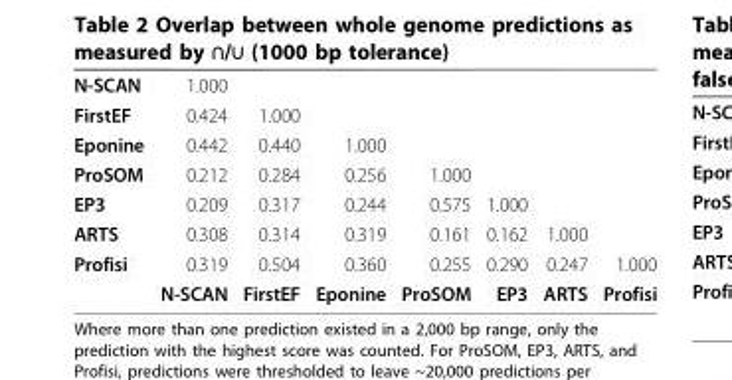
<table><tbody><tr><td>N-SCAN</td><td>1.000</td><td></td><td></td><td></td><td></td><td></td><td></td></tr><tr><td>FirstEF</td><td>0.424</td><td>1.000</td><td></td><td></td><td></td><td></td><td></td></tr><tr><td>Eponine</td><td>0.442</td><td>0.440</td><td>1.000</td><td></td><td></td><td></td><td></td></tr><tr><td>ProSOM</td><td>0.212</td><td>0.284</td><td>0.256</td><td>1.000</td><td></td><td></td><td></td></tr><tr><td>EP3</td><td>0.209</td><td>0.317</td><td>0.244</td><td>0.575</td><td>1.000</td><td></td><td></td></tr><tr><td>ARTS</td><td>0.308</td><td>0.314</td><td>0.319</td><td>0.161</td><td>0.162</td><td>1.000</td><td></td></tr><tr><td rowspan="2">Profisi</td><td>0.319</td><td>0.504</td><td>0.360</td><td>0.255</td><td>0.290</td><td>0.247</td><td>1.000</td></tr><tr><td>N-SCAN</td><td>FirstEF</td><td>Eponine</td><td>ProSOM</td><td>EP3</td><td>ARTS</td><td>Profisi</td></tr></tbody></table>